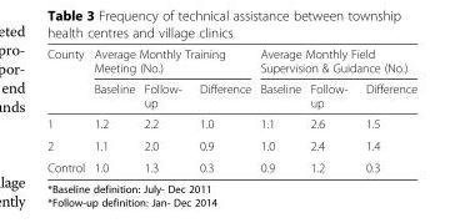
<table><thead><tr><td rowspan="2">County</td><td colspan="3">Average Monthly Training Meeting (No.)</td><td colspan="3">Average Monthly Field Supervision &amp; Guidance (No.)</td></tr><tr><td>Baseline</td><td>Follow- up</td><td>Difference</td><td>Baseline</td><td>Follow- up</td><td>Difference</td></tr></thead><tbody><tr><td>1</td><td>1.2</td><td>2.2</td><td>1.0</td><td>1.1</td><td>2.6</td><td>1.5</td></tr><tr><td>2</td><td>1.1</td><td>2.0</td><td>0.9</td><td>1.0</td><td>2.4</td><td>1.4</td></tr><tr><td>Control</td><td>1.0</td><td>1.3</td><td>0.3</td><td>0.9</td><td>1.2</td><td>0.3</td></tr></tbody></table>